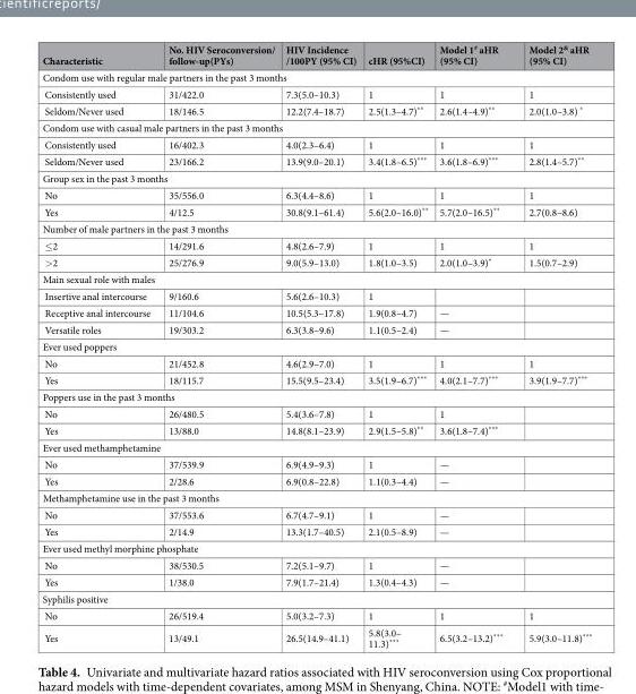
<table><thead><tr><td>Characteristic</td><td>No. HIV Seroconversion/ follow-up(PYs)</td><td>HIV Incidence /100PY (95% CI)</td><td>cHR (95%CI)</td><td>Model 1<sup>#</sup> aHR (95% CI)</td><td>Model 2<sup>&amp;</sup> aHR (95% CI)</td></tr></thead><tbody><tr><td colspan="6">Condom use with regular male partners in the past 3 months</td></tr><tr><td>Consistently used</td><td>31/422.0</td><td>7.3(5.0–10.3)</td><td>1</td><td>1</td><td>1</td></tr><tr><td>Seldom/Never used</td><td>18/146.5</td><td>12.2(7.4–18.7)</td><td>2.5(1.3–4.7)**</td><td>2.6(1.4–4.9)**</td><td>2.0(1.0–3.8) *</td></tr><tr><td colspan="6">Condom use with casual male partners in the past 3 months</td></tr><tr><td>Consistently used</td><td>16/402.3</td><td>4.0(2.3–6.4)</td><td>1</td><td>1</td><td>1</td></tr><tr><td>Seldom/Never used</td><td>23/166.2</td><td>13.9(9.0–20.1)</td><td>3.4(1.8–6.5)***</td><td>3.6(1.8–6.9)***</td><td>2.8(1.4–5.7)**</td></tr><tr><td colspan="6">Group sex in the past 3 months</td></tr><tr><td>No</td><td>35/556.0</td><td>6.3(4.4–8.6)</td><td>1</td><td>1</td><td>1</td></tr><tr><td>Yes</td><td>4/12.5</td><td>30.8(9.1–61.4)</td><td>5.6(2.0–16.0)**</td><td>5.7(2.0–16.5)**</td><td>2.7(0.8–8.6)</td></tr><tr><td colspan="6">Number of male partners in the past 3 months</td></tr><tr><td>≤2</td><td>14/291.6</td><td>4.8(2.6–7.9)</td><td>1</td><td>1</td><td>1</td></tr><tr><td>&gt;2</td><td>25/276.9</td><td>9.0(5.9–13.0)</td><td>1.8(1.0–3.5)</td><td>2.0(1.0–3.9)*</td><td>1.5(0.7–2.9)</td></tr><tr><td colspan="6">Main sexual role with males</td></tr><tr><td>Insertive anal intercourse</td><td>9/160.6</td><td>5.6(2.6–10.3)</td><td>1</td><td></td><td></td></tr><tr><td>Receptive anal intercourse</td><td>11/104.6</td><td>10.5(5.3–17.8)</td><td>1.9(0.8–4.7)</td><td>—</td><td></td></tr><tr><td>Versatile roles</td><td>19/303.2</td><td>6.3(3.8–9.6)</td><td>1.1(0.5–2.4)</td><td>—</td><td></td></tr><tr><td colspan="6">Ever used poppers</td></tr><tr><td>No</td><td>21/452.8</td><td>4.6(2.9–7.0)</td><td>1</td><td>1</td><td>1</td></tr><tr><td>Yes</td><td>18/115.7</td><td>15.5(9.5–23.4)</td><td>3.5(1.9–6.7)***</td><td>4.0(2.1–7.7)***</td><td>3.9(1.9–7.7)***</td></tr><tr><td colspan="6">Poppers use in the past 3 months</td></tr><tr><td>No</td><td>26/480.5</td><td>5.4(3.6–7.8)</td><td>1</td><td>1</td><td></td></tr><tr><td>Yes</td><td>13/88.0</td><td>14.8(8.1–23.9)</td><td>2.9(1.5–5.8)**</td><td>3.6(1.8–7.4)***</td><td></td></tr><tr><td colspan="6">Ever used methamphetamine</td></tr><tr><td>No</td><td>37/539.9</td><td>6.9(4.9–9.3)</td><td>1</td><td>—</td><td></td></tr><tr><td>Yes</td><td>2/28.6</td><td>6.9(0.8–22.8)</td><td>1.1(0.3–4.4)</td><td>—</td><td></td></tr><tr><td colspan="6">Methamphetamine use in the past 3 months</td></tr><tr><td>No</td><td>37/553.6</td><td>6.7(4.7–9.1)</td><td>1</td><td>—</td><td></td></tr><tr><td>Yes</td><td>2/14.9</td><td>13.3(1.7–40.5)</td><td>2.1(0.5–8.9)</td><td>—</td><td></td></tr><tr><td colspan="6">Ever used methyl morphine phosphate</td></tr><tr><td>No</td><td>38/530.5</td><td>7.2(5.1–9.7)</td><td>1</td><td>—</td><td></td></tr><tr><td>Yes</td><td>1/38.0</td><td>7.9(1.7–21.4)</td><td>1.3(0.4–4.3)</td><td>—</td><td></td></tr><tr><td colspan="6">Syphilis positive</td></tr><tr><td>No</td><td>26/519.4</td><td>5.0(3.2–7.3)</td><td>1</td><td>1</td><td>1</td></tr><tr><td>Yes</td><td>13/49.1</td><td>26.5(14.9–41.1)</td><td>5.8(3.0– 11.3)***</td><td>6.5(3.2–13.2)***</td><td>5.9(3.0–11.8)***</td></tr></tbody></table>